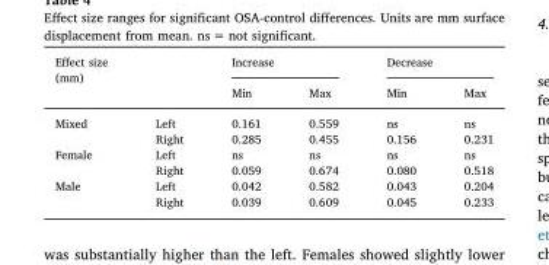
<table><thead><tr><td rowspan="2">Effect size (mm)</td><td rowspan="2"></td><td colspan="2">Increase</td><td colspan="2">Decrease</td></tr><tr><td>Min</td><td>Max</td><td>Min</td><td>Max</td></tr></thead><tbody><tr><td rowspan="2">Mixed</td><td>Left</td><td>0.161</td><td>0.559</td><td>ns</td><td>ns</td></tr><tr><td>Right</td><td>0.285</td><td>0.455</td><td>0.156</td><td>0.231</td></tr><tr><td rowspan="2">Female</td><td>Left</td><td>ns</td><td>ns</td><td>ns</td><td>ns</td></tr><tr><td>Right</td><td>0.059</td><td>0.674</td><td>0.080</td><td>0.518</td></tr><tr><td rowspan="2">Male</td><td>Left</td><td>0.042</td><td>0.582</td><td>0.043</td><td>0.204</td></tr><tr><td>Right</td><td>0.039</td><td>0.609</td><td>0.045</td><td>0.233</td></tr></tbody></table>